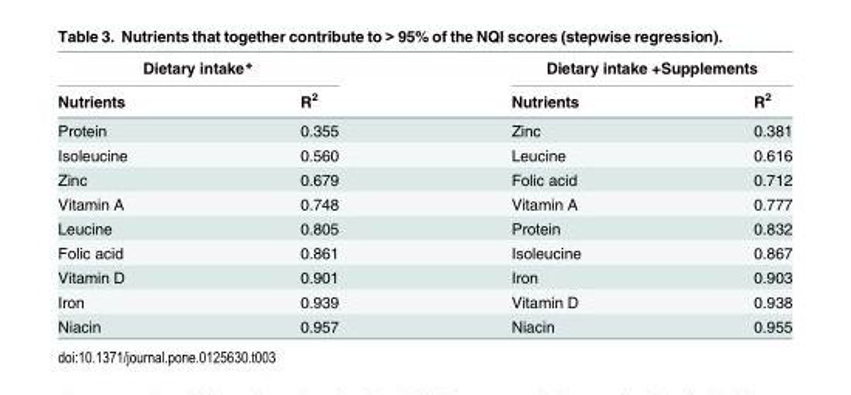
<table><thead><tr><td colspan="2">Dietary intake*</td><td colspan="2">Dietary intake +Supplements</td></tr><tr><td>Nutrients</td><td>R<sup>2</sup></td><td>Nutrients</td><td>R<sup>2</sup></td></tr></thead><tbody><tr><td>Protein</td><td>0.355</td><td>Zinc</td><td>0.381</td></tr><tr><td>Isoleucine</td><td>0.560</td><td>Leucine</td><td>0.616</td></tr><tr><td>Zinc</td><td>0.679</td><td>Folic acid</td><td>0.712</td></tr><tr><td>Vitamin A</td><td>0.748</td><td>Vitamin A</td><td>0.777</td></tr><tr><td>Leucine</td><td>0.805</td><td>Protein</td><td>0.832</td></tr><tr><td>Folic acid</td><td>0.861</td><td>Isoleucine</td><td>0.867</td></tr><tr><td>Vitamin D</td><td>0.901</td><td>Iron</td><td>0.903</td></tr><tr><td>Iron</td><td>0.939</td><td>Vitamin D</td><td>0.938</td></tr><tr><td>Niacin</td><td>0.957</td><td>Niacin</td><td>0.955</td></tr></tbody></table>